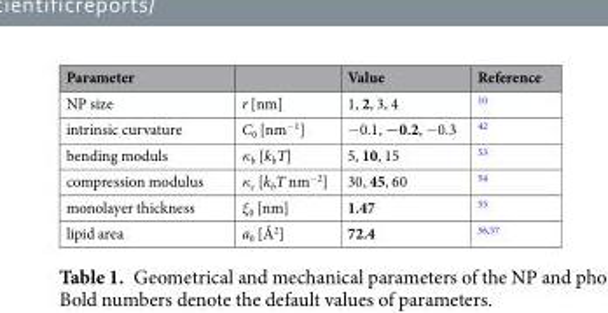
<table><thead><tr><td>Parameter</td><td></td><td>Value</td><td>Reference</td></tr></thead><tbody><tr><td>NP size</td><td>r [nm]</td><td>1, 2, 3, 4</td><td><sup>10</sup></td></tr><tr><td>intrinsic curvature</td><td>C<sub>0</sub> [nm<sup>−1</sup>]</td><td>−0.1, −0.2, −0.3</td><td><sup>42</sup></td></tr><tr><td>bending moduls</td><td>κ<sub>b</sub> [k<sub>b</sub>T]</td><td>5, 10, 15</td><td><sup>53</sup></td></tr><tr><td>compression modulus</td><td>κ<sub>c</sub> [k<sub>b</sub>T nm<sup>−2</sup>]</td><td>30, 45, 60</td><td><sup>54</sup></td></tr><tr><td>monolayer thickness</td><td>ξ<sub>0</sub> [nm]</td><td>1.47</td><td><sup>55</sup></td></tr><tr><td>lipid area</td><td>a<sub>0</sub> [Å<sup>2</sup>]</td><td>72.4</td><td><sup>56,57</sup></td></tr></tbody></table>